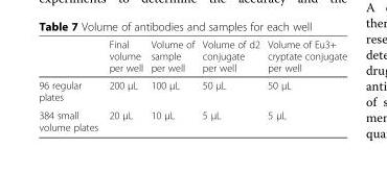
<table><thead><tr><td></td><td>Final volume per well</td><td>Volume of sample per well</td><td>Volume of d2 conjugate per well</td><td>Volume of Eu3+ cryptate conjugate per well</td></tr></thead><tbody><tr><td>96 regular plates</td><td>200 μL</td><td>100 μL</td><td>50 μL</td><td>50 μL</td></tr><tr><td>384 small volume plates</td><td>20 μL</td><td>10 μL</td><td>5 μL</td><td>5 μL</td></tr></tbody></table>